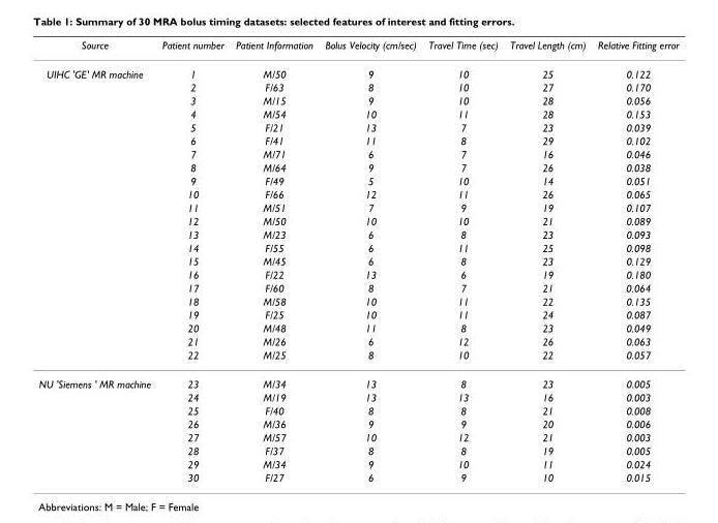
<table><thead><tr><td>Source</td><td>Patient number</td><td>Patient Information</td><td>Bolus Velocity (cm/sec)</td><td>Travel Time (sec)</td><td>Travel Length (cm)</td><td>Relative Fitting error</td></tr></thead><tbody><tr><td rowspan="22">UIHC &#x27;GE&#x27; MR machine</td><td>1</td><td>M/50</td><td>9</td><td>10</td><td>25</td><td>0.122</td></tr><tr><td>2</td><td>F/63</td><td>8</td><td>10</td><td>27</td><td>0.170</td></tr><tr><td>3</td><td>M/15</td><td>9</td><td>10</td><td>28</td><td>0.056</td></tr><tr><td>4</td><td>M/54</td><td>10</td><td>11</td><td>28</td><td>0.153</td></tr><tr><td>5</td><td>F/21</td><td>13</td><td>7</td><td>23</td><td>0.039</td></tr><tr><td>6</td><td>F/41</td><td>11</td><td>8</td><td>29</td><td>0.102</td></tr><tr><td>7</td><td>M/71</td><td>6</td><td>7</td><td>16</td><td>0.046</td></tr><tr><td>8</td><td>M/64</td><td>9</td><td>7</td><td>26</td><td>0.038</td></tr><tr><td>9</td><td>F/49</td><td>5</td><td>10</td><td>14</td><td>0.051</td></tr><tr><td>10</td><td>F/66</td><td>12</td><td>11</td><td>26</td><td>0.065</td></tr><tr><td>11</td><td>M/51</td><td>7</td><td>9</td><td>19</td><td>0.107</td></tr><tr><td>12</td><td>M/50</td><td>10</td><td>10</td><td>21</td><td>0.089</td></tr><tr><td>13</td><td>M/23</td><td>6</td><td>8</td><td>23</td><td>0.093</td></tr><tr><td>14</td><td>F/55</td><td>6</td><td>11</td><td>25</td><td>0.098</td></tr><tr><td>15</td><td>M/45</td><td>6</td><td>8</td><td>23</td><td>0.129</td></tr><tr><td>16</td><td>F/22</td><td>13</td><td>6</td><td>19</td><td>0.180</td></tr><tr><td>17</td><td>F/60</td><td>8</td><td>7</td><td>21</td><td>0.064</td></tr><tr><td>18</td><td>M/58</td><td>10</td><td>11</td><td>22</td><td>0.135</td></tr><tr><td>19</td><td>F/25</td><td>10</td><td>11</td><td>24</td><td>0.087</td></tr><tr><td>20</td><td>M/48</td><td>11</td><td>8</td><td>23</td><td>0.049</td></tr><tr><td>21</td><td>M/26</td><td>6</td><td>12</td><td>26</td><td>0.063</td></tr><tr><td>22</td><td>M/25</td><td>8</td><td>10</td><td>22</td><td>0.057</td></tr><tr><td rowspan="8">NU &#x27;Siemens &#x27; MR machine</td><td>23</td><td>M/34</td><td>13</td><td>8</td><td>23</td><td>0.005</td></tr><tr><td>24</td><td>M/19</td><td>13</td><td>13</td><td>16</td><td>0.003</td></tr><tr><td>25</td><td>F/40</td><td>8</td><td>8</td><td>21</td><td>0.008</td></tr><tr><td>26</td><td>M/36</td><td>9</td><td>9</td><td>20</td><td>0.006</td></tr><tr><td>27</td><td>M/57</td><td>10</td><td>12</td><td>21</td><td>0.003</td></tr><tr><td>28</td><td>F/37</td><td>8</td><td>8</td><td>19</td><td>0.005</td></tr><tr><td>29</td><td>M/34</td><td>9</td><td>10</td><td>11</td><td>0.024</td></tr><tr><td>30</td><td>F/27</td><td>6</td><td>9</td><td>10</td><td>0.015</td></tr></tbody></table>